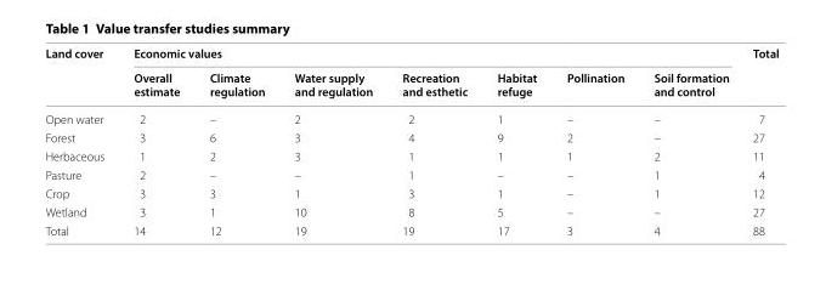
<table><thead><tr><td rowspan="2">Land cover</td><td colspan="7">Economic values</td><td rowspan="2">Total</td></tr><tr><td>Overall estimate</td><td>Climate regulation</td><td>Water supply and regulation</td><td>Recreation and esthetic</td><td>Habitat refuge</td><td>Pollination</td><td>Soil formation and control</td></tr></thead><tbody><tr><td>Open water</td><td>2</td><td>–</td><td>2</td><td>2</td><td>1</td><td>–</td><td>–</td><td>7</td></tr><tr><td>Forest</td><td>3</td><td>6</td><td>3</td><td>4</td><td>9</td><td>2</td><td>–</td><td>27</td></tr><tr><td>Herbaceous</td><td>1</td><td>2</td><td>3</td><td>1</td><td>1</td><td>1</td><td>2</td><td>11</td></tr><tr><td>Pasture</td><td>2</td><td>–</td><td>–</td><td>1</td><td>–</td><td>–</td><td>1</td><td>4</td></tr><tr><td>Crop</td><td>3</td><td>3</td><td>1</td><td>3</td><td>1</td><td>–</td><td>1</td><td>12</td></tr><tr><td>Wetland</td><td>3</td><td>1</td><td>10</td><td>8</td><td>5</td><td>–</td><td>–</td><td>27</td></tr><tr><td>Total</td><td>14</td><td>12</td><td>19</td><td>19</td><td>17</td><td>3</td><td>4</td><td>88</td></tr></tbody></table>